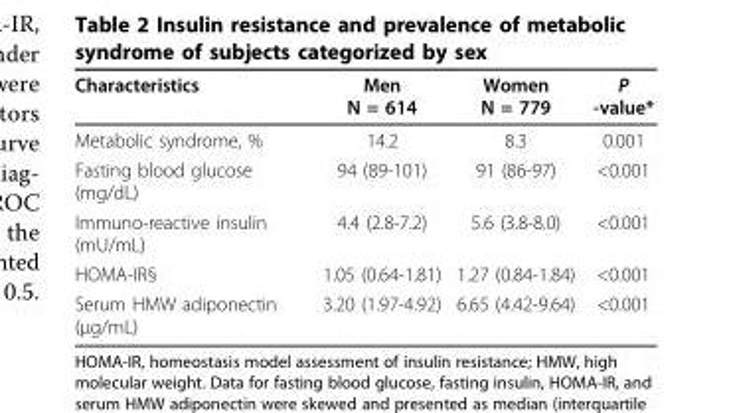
<table><thead><tr><td>Characteristics</td><td>Men N = 614</td><td>Women N = 779</td><td>P -value*</td></tr></thead><tbody><tr><td>Metabolic syndrome, %</td><td>14.2</td><td>8.3</td><td>0.001</td></tr><tr><td>Fasting blood glucose (mg/dL)</td><td>94 (89-101)</td><td>91 (86-97)</td><td>&lt;0.001</td></tr><tr><td>Immuno-reactive insulin (mU/mL)</td><td>4.4 (2.8-7.2)</td><td>5.6 (3.8-8.0)</td><td>&lt;0.001</td></tr><tr><td>HOMA-IR§</td><td>1.05 (0.64-1.81)</td><td>1.27 (0.84-1.84)</td><td>&lt;0.001</td></tr><tr><td>Serum HMW adiponectin (μg/mL)</td><td>3.20 (1.97-4.92)</td><td>6.65 (4.42-9.64)</td><td>&lt;0.001</td></tr></tbody></table>